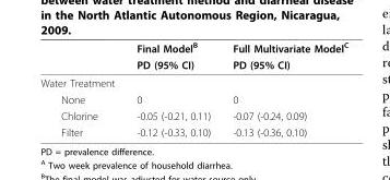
<table><thead><tr><td rowspan="2"></td><td rowspan="2">Final Model<sup>B</sup> PD (95% CI)</td><td rowspan="2">Full Multivariate Model<sup>C</sup> PD (95% CI)</td></tr><tr></tr></thead><tbody><tr><td colspan="3">Water Treatment</td></tr><tr><td>None</td><td>0</td><td>0</td></tr><tr><td>Chlorine</td><td>-0.05 (-0.21, 0.11)</td><td>-0.07 (-0.24, 0.09)</td></tr><tr><td>Filter</td><td>-0.12 (-0.33, 0.10)</td><td>-0.13 (-0.36, 0.10)</td></tr></tbody></table>